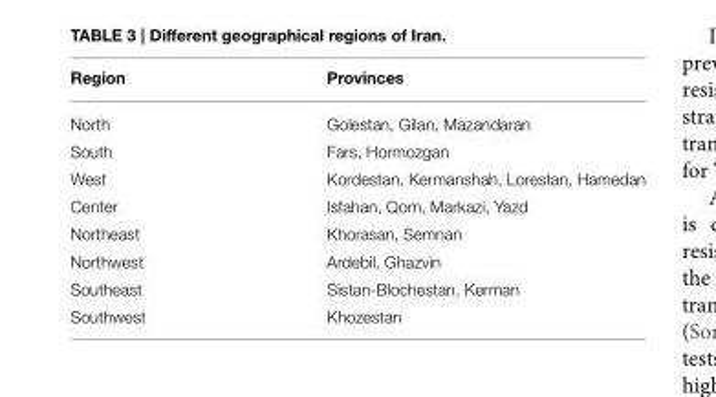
<table><thead><tr><td>Region</td><td>Provinces</td></tr></thead><tbody><tr><td>North</td><td>Golestan, Gilan, Mazandaran</td></tr><tr><td>South</td><td>Fars, Hormozgan</td></tr><tr><td>West</td><td>Kordestan, Kermanshah, Lorestan, Hamedan</td></tr><tr><td>Center</td><td>Isfahan, Qom, Markazi, Yazd</td></tr><tr><td>Northeast</td><td>Khorasan, Semnan</td></tr><tr><td>Northwest</td><td>Ardebil, Ghazvin</td></tr><tr><td>Southeast</td><td>Sistan-Blochestan, Kerman</td></tr><tr><td>Southwest</td><td>Khozestan</td></tr></tbody></table>